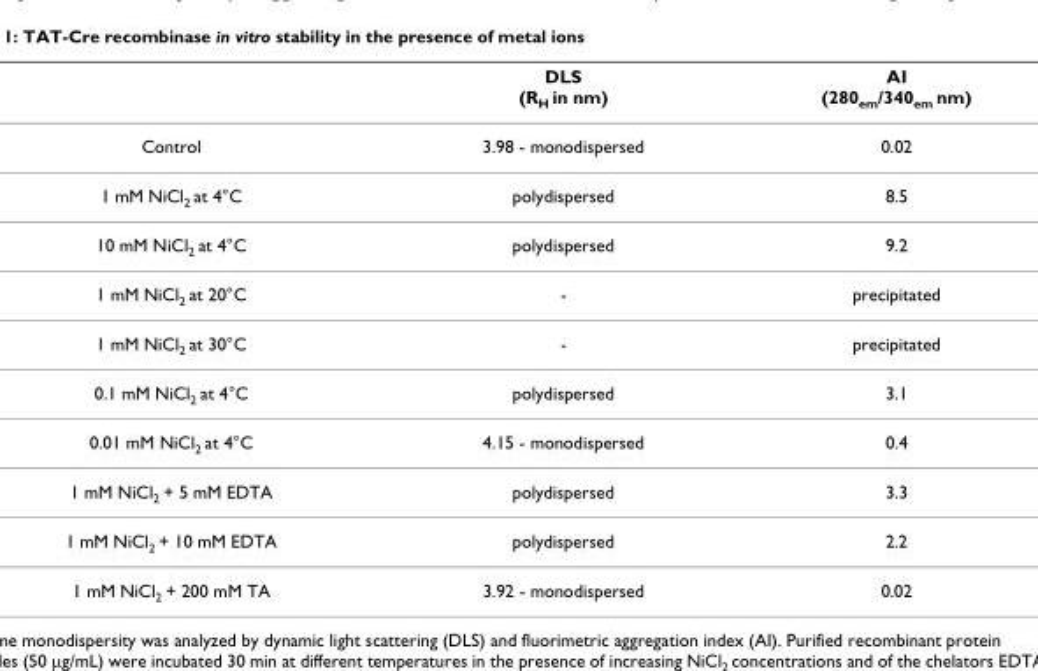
<table><thead><tr><td></td><td>DLS (R<sub>H</sub> in nm)</td><td>AI (280<sub>em</sub>/340<sub>em</sub> nm)</td></tr></thead><tbody><tr><td>Control</td><td>3.98 - monodispersed</td><td>0.02</td></tr><tr><td>1 mM NiCl<sub>2</sub> at 4°C</td><td>polydispersed</td><td>8.5</td></tr><tr><td>10 mM NiCl<sub>2</sub> at 4°C</td><td>polydispersed</td><td>9.2</td></tr><tr><td>1 mM NiCl<sub>2</sub> at 20°C</td><td>-</td><td>precipitated</td></tr><tr><td>1 mM NiCl<sub>2</sub> at 30°C</td><td>-</td><td>precipitated</td></tr><tr><td>0.1 mM NiCl<sub>2</sub> at 4°C</td><td>polydispersed</td><td>3.1</td></tr><tr><td>0.01 mM NiCl<sub>2</sub> at 4°C</td><td>4.15 - monodispersed</td><td>0.4</td></tr><tr><td>1 mM NiCl<sub>2</sub> + 5 mM EDTA</td><td>polydispersed</td><td>3.3</td></tr><tr><td>1 mM NiCl<sub>2</sub> + 10 mM EDTA</td><td>polydispersed</td><td>2.2</td></tr><tr><td>1 mM NiCl<sub>2</sub> + 200 mM TA</td><td>3.92 - monodispersed</td><td>0.02</td></tr></tbody></table>